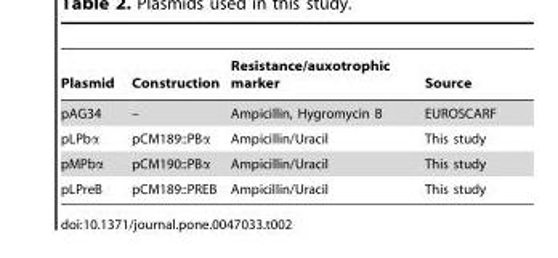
<table><thead><tr><td>Plasmid</td><td>Construction</td><td>Resistance/auxotrophic marker</td><td>Source</td></tr></thead><tbody><tr><td>pAG34</td><td>–</td><td>Ampicillin, Hygromycin B</td><td>EUROSCARF</td></tr><tr><td>pLPbα</td><td>pCM189::PBα</td><td>Ampicillin/Uracil</td><td>This study</td></tr><tr><td>pMPbα</td><td>pCM190::PBα</td><td>Ampicillin/Uracil</td><td>This study</td></tr><tr><td>pLPreB</td><td>pCM189::PREB</td><td>Ampicillin/Uracil</td><td>This study</td></tr></tbody></table>